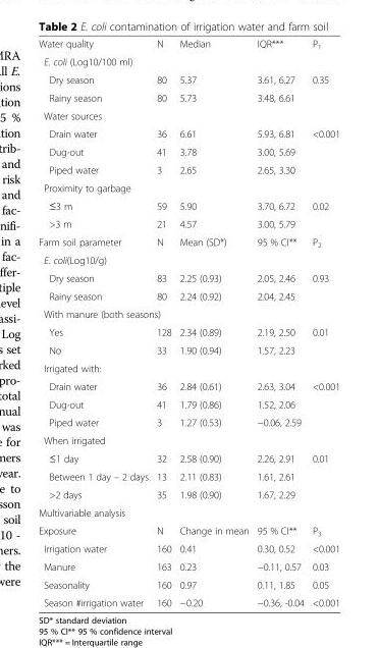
<table><tbody><tr><td>Water quality</td><td>N</td><td>Median</td><td>IQR***</td><td>P<sub>1</sub></td></tr><tr><td colspan="5">E. coli (Log10/100 ml)</td></tr><tr><td>Dry season</td><td>80</td><td>5.37</td><td>3.61, 6.27</td><td rowspan="2">0.35</td></tr><tr><td>Rainy season</td><td>80</td><td>5.73</td><td>3.48, 6.61</td></tr><tr><td colspan="5">Water sources</td></tr><tr><td>Drain water</td><td>36</td><td>6.61</td><td>5.93, 6.81</td><td rowspan="3">&lt;0.001</td></tr><tr><td>Dug-out</td><td>41</td><td>3.78</td><td>3.00, 5.69</td></tr><tr><td>Piped water</td><td>3</td><td>2.65</td><td>2.65, 3.30</td></tr><tr><td colspan="5">Proximity to garbage</td></tr><tr><td>≤3 m</td><td>59</td><td>5.90</td><td>3.70, 6.72</td><td rowspan="2">0.02</td></tr><tr><td>&gt;3 m</td><td>21</td><td>4.57</td><td>3.00, 5.79</td></tr><tr><td>Farm soil parameter</td><td>N</td><td>Mean (SD*)</td><td>95 % CI**</td><td>P<sub>2</sub></td></tr><tr><td colspan="5">E. coli(Log10/g)</td></tr><tr><td>Dry season</td><td>83</td><td>2.25 (0.93)</td><td>2.05, 2.46</td><td rowspan="2">0.93</td></tr><tr><td>Rainy season</td><td>80</td><td>2.24 (0.92)</td><td>2.04, 2.45</td></tr><tr><td colspan="5">With manure (both seasons)</td></tr><tr><td>Yes</td><td>128</td><td>2.34 (0.89)</td><td>2.19, 2.50</td><td rowspan="2">0.01</td></tr><tr><td>No</td><td>33</td><td>1.90 (0.94)</td><td>1.57, 2.23</td></tr><tr><td colspan="5">Irrigated with:</td></tr><tr><td>Drain water</td><td>36</td><td>2.84 (0.61)</td><td>2.63, 3.04</td><td rowspan="3">&lt;0.001</td></tr><tr><td>Dug-out</td><td>41</td><td>1.79 (0.86)</td><td>1.52, 2.06</td></tr><tr><td>Piped water</td><td>3</td><td>1.27 (0.53)</td><td>−0.06, 2.59</td></tr><tr><td colspan="5">When irrigated</td></tr><tr><td>≤1 day</td><td>32</td><td>2.58 (0.90)</td><td>2.26, 2.91</td><td rowspan="3">0.01</td></tr><tr><td>Between 1 day – 2 days</td><td>13</td><td>2.11 (0.83)</td><td>1.61, 2.61</td></tr><tr><td>&gt;2 days</td><td>35</td><td>1.98 (0.90)</td><td>1.67, 2.29</td></tr><tr><td colspan="5">Multivariable analysis</td></tr><tr><td>Exposure</td><td>N</td><td>Change in mean</td><td>95 % CI**</td><td>P<sub>3</sub></td></tr><tr><td>Irrigation water</td><td>160</td><td>0.41</td><td>0.30, 0.52</td><td>&lt;0.001</td></tr><tr><td>Manure</td><td>163</td><td>0.23</td><td>−0.11, 0.57</td><td>0.03</td></tr><tr><td>Seasonality</td><td>160</td><td>0.97</td><td>0.11, 1.85</td><td>0.05</td></tr><tr><td>Season #irrigation water</td><td>160</td><td>−0.20</td><td>−0.36, -0.04</td><td>&lt;0.001</td></tr></tbody></table>